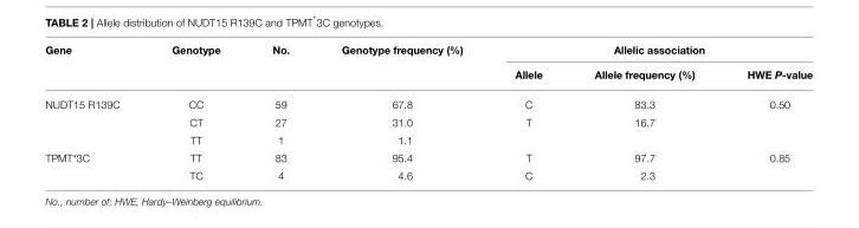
<table><thead><tr><td rowspan="2">Gene</td><td rowspan="2">Genotype</td><td rowspan="2">No.</td><td rowspan="2">Genotype frequency (%)</td><td colspan="3">Allelic association</td></tr><tr><td>Allele</td><td>Allele frequency (%)</td><td>HWE P-value</td></tr></thead><tbody><tr><td rowspan="3">NUDT15 R139C</td><td>CC</td><td>59</td><td>67.8</td><td>C</td><td>83.3</td><td>0.50</td></tr><tr><td>CT</td><td>27</td><td>31.0</td><td>T</td><td>16.7</td><td></td></tr><tr><td>TT</td><td>1</td><td>1.1</td><td></td><td></td><td></td></tr><tr><td rowspan="2">TPMT*3C</td><td>TT</td><td>83</td><td>95.4</td><td>T</td><td>97.7</td><td>0.85</td></tr><tr><td>TC</td><td>4</td><td>4.6</td><td>C</td><td>2.3</td><td></td></tr></tbody></table>